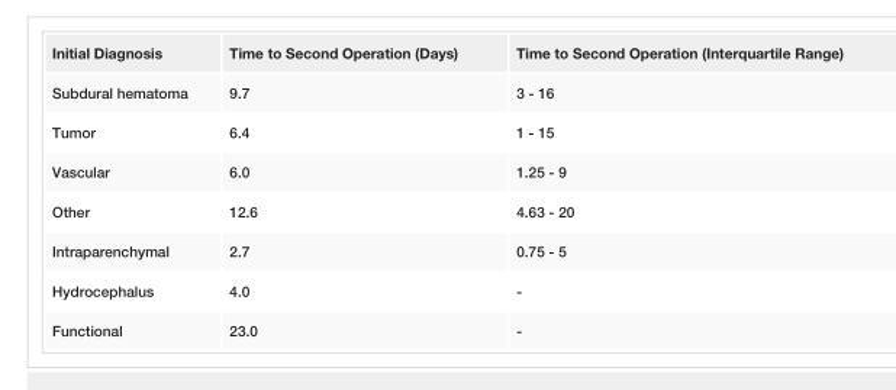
<table><tbody><tr><td>Initial Diagnosis</td><td>Time to Second Operation (Days)</td><td>Time to Second Operation (Interquartile Range)</td></tr><tr><td>Subdural hematoma</td><td>9.7</td><td>3 - 16</td></tr><tr><td>Tumor</td><td>6.4</td><td>1 - 15</td></tr><tr><td>Vascular</td><td>6.0</td><td>1.25 - 9</td></tr><tr><td>Other</td><td>12.6</td><td>4.63 - 20</td></tr><tr><td>Intraparenchymal</td><td>2.7</td><td>0.75 - 5</td></tr><tr><td>Hydrocephalus</td><td>4.0</td><td>-</td></tr><tr><td>Functional</td><td>23.0</td><td>-</td></tr></tbody></table>